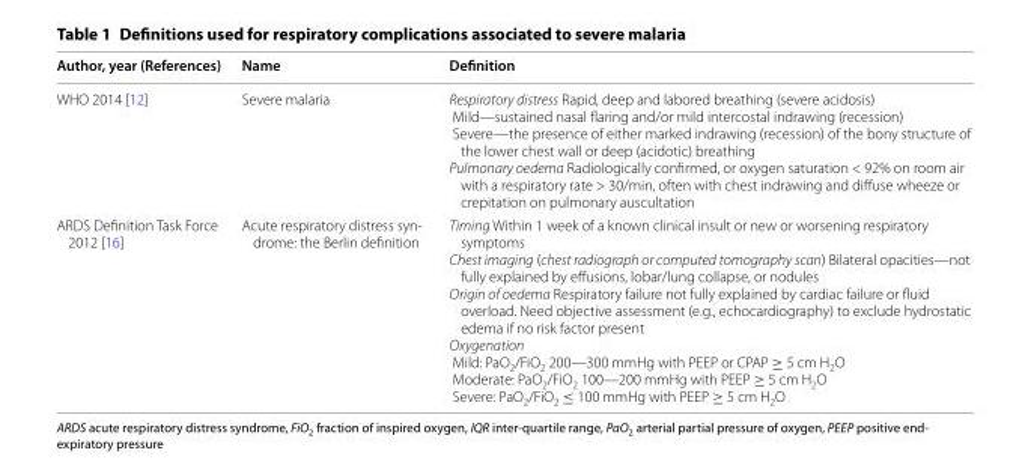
<table><thead><tr><td>Author, year (References)</td><td>Name</td><td>Definition</td></tr></thead><tbody><tr><td>WHO 2014 [12]</td><td>Severe malaria</td><td>Respiratory distress Rapid, deep and labored breathing (severe acidosis) Mild—sustained nasal flaring and/or mild intercostal indrawing (recession) Severe—the presence of either marked indrawing (recession) of the bony structure of the lower chest wall or deep (acidotic) breathing Pulmonary oedema Radiologically confirmed, or oxygen saturation &lt; 92% on room air with a respiratory rate &gt; 30/min, often with chest indrawing and diffuse wheeze or crepitation on pulmonary auscultation</td></tr><tr><td>ARDS Definition Task Force 2012 [16]</td><td>Acute respiratory distress syn- drome: the Berlin definition</td><td>Timing Within 1 week of a known clinical insult or new or worsening respiratory symptoms Chest imaging (chest radiograph or computed tomography scan) Bilateral opacities—not fully explained by effusions, lobar/lung collapse, or nodules Origin of oedema Respiratory failure not fully explained by cardiac failure or fluid overload. Need objective assessment (e.g., echocardiography) to exclude hydrostatic edema if no risk factor present Oxygenation Mild: PaO<sub>2</sub>/FiO<sub>2</sub> 200—300 mmHg with PEEP or CPAP ≥ 5 cm H<sub>2</sub>O Moderate: PaO<sub>2</sub>/FiO<sub>2</sub> 100—200 mmHg with PEEP ≥ 5 cm H<sub>2</sub>O Severe: PaO<sub>2</sub>/FiO<sub>2</sub> ≤ 100 mmHg with PEEP ≥ 5 cm H<sub>2</sub>O</td></tr></tbody></table>